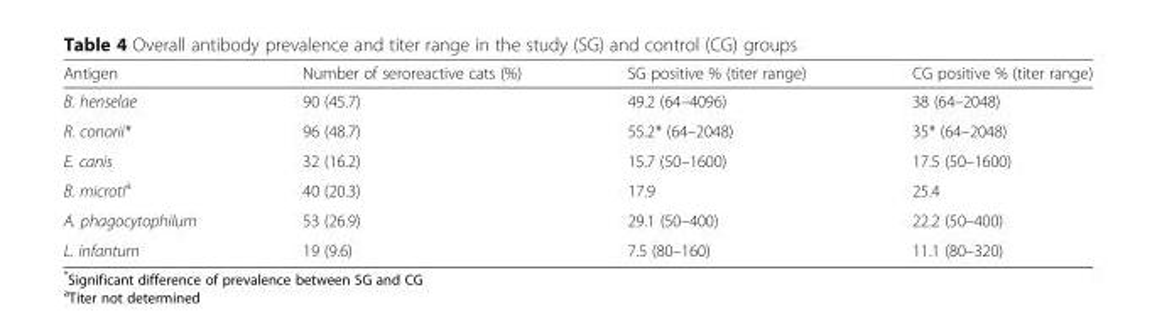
<table><thead><tr><td>Antigen</td><td>Number of seroreactive cats (%)</td><td>SG positive % (titer range)</td><td>CG positive % (titer range)</td></tr></thead><tbody><tr><td>B. henselae</td><td>90 (45.7)</td><td>49.2 (64–4096)</td><td>38 (64–2048)</td></tr><tr><td>R. conorii*</td><td>96 (48.7)</td><td>55.2* (64–2048)</td><td>35* (64–2048)</td></tr><tr><td>E. canis</td><td>32 (16.2)</td><td>15.7 (50–1600)</td><td>17.5 (50–1600)</td></tr><tr><td>B. microti<sup>a</sup></td><td>40 (20.3)</td><td>17.9</td><td>25.4</td></tr><tr><td>A. phagocytophilum</td><td>53 (26.9)</td><td>29.1 (50–400)</td><td>22.2 (50–400)</td></tr><tr><td>L. infantum</td><td>19 (9.6)</td><td>7.5 (80–160)</td><td>11.1 (80–320)</td></tr></tbody></table>